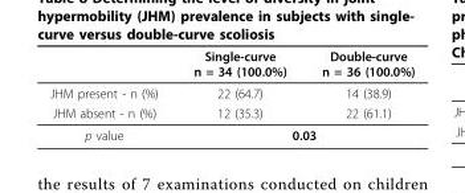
<table><thead><tr><td></td><td>Single-curve n = 34 (100.0%)</td><td>Double-curve n = 36 (100.0%)</td></tr></thead><tbody><tr><td>JHM present - n (%)</td><td>22 (64.7)</td><td>14 (38.9)</td></tr><tr><td>JHM absent - n (%)</td><td>12 (35.3)</td><td>22 (61.1)</td></tr><tr><td>p value</td><td colspan="2">0.03</td></tr></tbody></table>